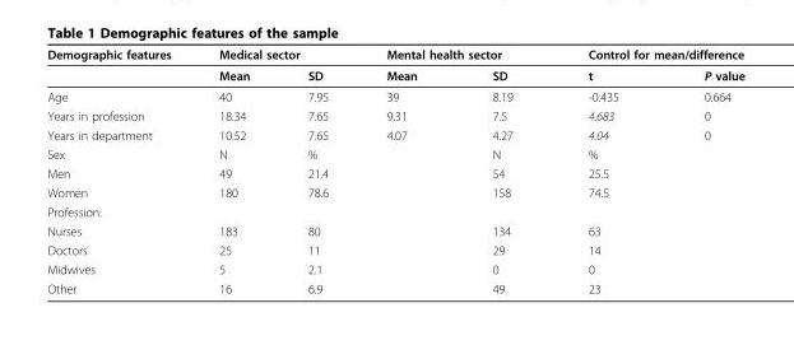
<table><thead><tr><td rowspan="2">Demographic features</td><td colspan="2">Medical sector</td><td colspan="2">Mental health sector</td><td colspan="2">Control for mean/difference</td></tr><tr><td>Mean</td><td>SD</td><td>Mean</td><td>SD</td><td>t</td><td>P value</td></tr></thead><tbody><tr><td>Age</td><td>40</td><td>7.95</td><td>39</td><td>8.19</td><td>-0.435</td><td>0.664</td></tr><tr><td>Years in profession</td><td>18.34</td><td>7.65</td><td>9.31</td><td>7.5</td><td>4.683</td><td>0</td></tr><tr><td>Years in department</td><td>10.52</td><td>7.65</td><td>4.07</td><td>4.27</td><td>4.04</td><td>0</td></tr><tr><td>Sex</td><td>N</td><td>%</td><td></td><td>N</td><td>%</td><td></td></tr><tr><td>Men</td><td>49</td><td>21.4</td><td></td><td>54</td><td>25.5</td><td></td></tr><tr><td>Women</td><td>180</td><td>78.6</td><td></td><td>158</td><td>74.5</td><td></td></tr><tr><td colspan="7">Profession:</td></tr><tr><td>Nurses</td><td>183</td><td>80</td><td></td><td>134</td><td>63</td><td></td></tr><tr><td>Doctors</td><td>25</td><td>11</td><td></td><td>29</td><td>14</td><td></td></tr><tr><td>Midwives</td><td>5</td><td>2.1</td><td></td><td>0</td><td>0</td><td></td></tr><tr><td>Other</td><td>16</td><td>6.9</td><td></td><td>49</td><td>23</td><td></td></tr></tbody></table>